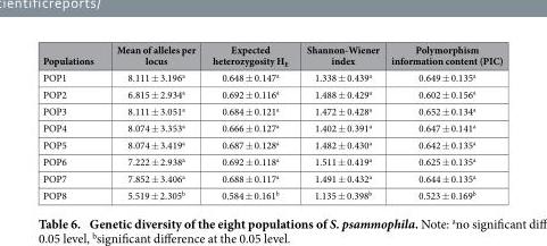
<table><thead><tr><td>Populations</td><td>Mean of alleles per locus</td><td>Expected heterozygosity H<sub>E</sub></td><td>Shannon-Wiener index</td><td>Polymorphism information content (PIC)</td></tr></thead><tbody><tr><td>POP1</td><td>8.111 ± 3.196<sup>a</sup></td><td>0.648 ± 0.147<sup>a</sup></td><td>1.338 ± 0.439<sup>a</sup></td><td>0.649 ± 0.135<sup>a</sup></td></tr><tr><td>POP2</td><td>6.815 ± 2.934<sup>a</sup></td><td>0.692 ± 0.116<sup>a</sup></td><td>1.488 ± 0.429<sup>a</sup></td><td>0.602 ± 0.156<sup>a</sup></td></tr><tr><td>POP3</td><td>8.111 ± 3.051<sup>a</sup></td><td>0.684 ± 0.121<sup>a</sup></td><td>1.472 ± 0.428<sup>a</sup></td><td>0.652 ± 0.134<sup>a</sup></td></tr><tr><td>POP4</td><td>8.074 ± 3.353<sup>a</sup></td><td>0.666 ± 0.127<sup>a</sup></td><td>1.402 ± 0.391<sup>a</sup></td><td>0.647 ± 0.141<sup>a</sup></td></tr><tr><td>POP5</td><td>8.074 ± 3.419<sup>a</sup></td><td>0.687 ± 0.128<sup>a</sup></td><td>1.482 ± 0.430<sup>a</sup></td><td>0.642 ± 0.135<sup>a</sup></td></tr><tr><td>POP6</td><td>7.222 ± 2.938<sup>a</sup></td><td>0.692 ± 0.118<sup>a</sup></td><td>1.511 ± 0.419<sup>a</sup></td><td>0.625 ± 0.135<sup>a</sup></td></tr><tr><td>POP7</td><td>7.852 ± 3.406<sup>a</sup></td><td>0.688 ± 0.117<sup>a</sup></td><td>1.491 ± 0.432<sup>a</sup></td><td>0.644 ± 0.135<sup>a</sup></td></tr><tr><td>POP8</td><td>5.519 ± 2.305<sup>b</sup></td><td>0.584 ± 0.161<sup>b</sup></td><td>1.135 ± 0.398<sup>b</sup></td><td>0.523 ± 0.169<sup>b</sup></td></tr></tbody></table>